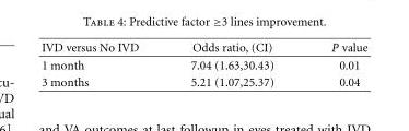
<table><thead><tr><td>IVD versus No IVD</td><td>Odds ratio, (CI)</td><td>P value</td></tr></thead><tbody><tr><td>1 month</td><td>7.04 (1.63,30.43)</td><td>0.01</td></tr><tr><td>3 months</td><td>5.21 (1.07,25.37)</td><td>0.04</td></tr></tbody></table>